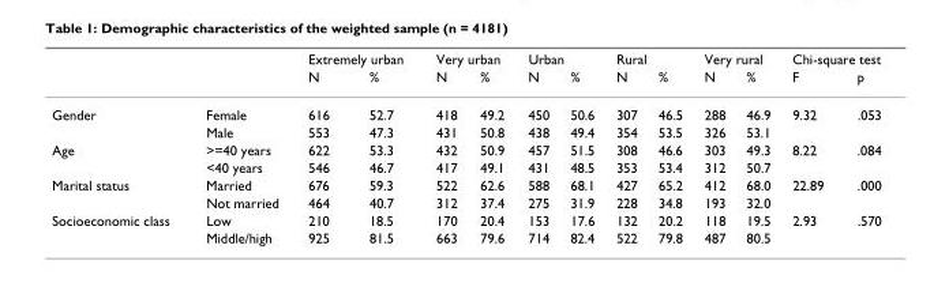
<table><thead><tr><td rowspan="2"></td><td rowspan="2"></td><td colspan="2">Extremely urban</td><td colspan="2">Very urban</td><td colspan="2">Urban</td><td colspan="2">Rural</td><td colspan="2">Very rural</td><td colspan="2">Chi-square test</td></tr><tr><td>N</td><td>%</td><td>N</td><td>%</td><td>N</td><td>%</td><td>N</td><td>%</td><td>N</td><td>%</td><td>F</td><td>p</td></tr></thead><tbody><tr><td rowspan="2">Gender</td><td>Female</td><td>616</td><td>52.7</td><td>418</td><td>49.2</td><td>450</td><td>50.6</td><td>307</td><td>46.5</td><td>288</td><td>46.9</td><td>9.32</td><td>.053</td></tr><tr><td>Male</td><td>553</td><td>47.3</td><td>431</td><td>50.8</td><td>438</td><td>49.4</td><td>354</td><td>53.5</td><td>326</td><td>53.1</td><td></td><td></td></tr><tr><td rowspan="2">Age</td><td>&gt;=40 years</td><td>622</td><td>53.3</td><td>432</td><td>50.9</td><td>457</td><td>51.5</td><td>308</td><td>46.6</td><td>303</td><td>49.3</td><td>8.22</td><td>.084</td></tr><tr><td>&lt;40 years</td><td>546</td><td>46.7</td><td>417</td><td>49.1</td><td>431</td><td>48.5</td><td>353</td><td>53.4</td><td>312</td><td>50.7</td><td></td><td></td></tr><tr><td rowspan="2">Marital status</td><td>Married</td><td>676</td><td>59.3</td><td>522</td><td>62.6</td><td>588</td><td>68.1</td><td>427</td><td>65.2</td><td>412</td><td>68.0</td><td>22.89</td><td>.000</td></tr><tr><td>Not married</td><td>464</td><td>40.7</td><td>312</td><td>37.4</td><td>275</td><td>31.9</td><td>228</td><td>34.8</td><td>193</td><td>32.0</td><td></td><td></td></tr><tr><td rowspan="2">Socioeconomic class</td><td>Low</td><td>210</td><td>18.5</td><td>170</td><td>20.4</td><td>153</td><td>17.6</td><td>132</td><td>20.2</td><td>118</td><td>19.5</td><td>2.93</td><td>.570</td></tr><tr><td>Middle/high</td><td>925</td><td>81.5</td><td>663</td><td>79.6</td><td>714</td><td>82.4</td><td>522</td><td>79.8</td><td>487</td><td>80.5</td><td></td><td></td></tr></tbody></table>